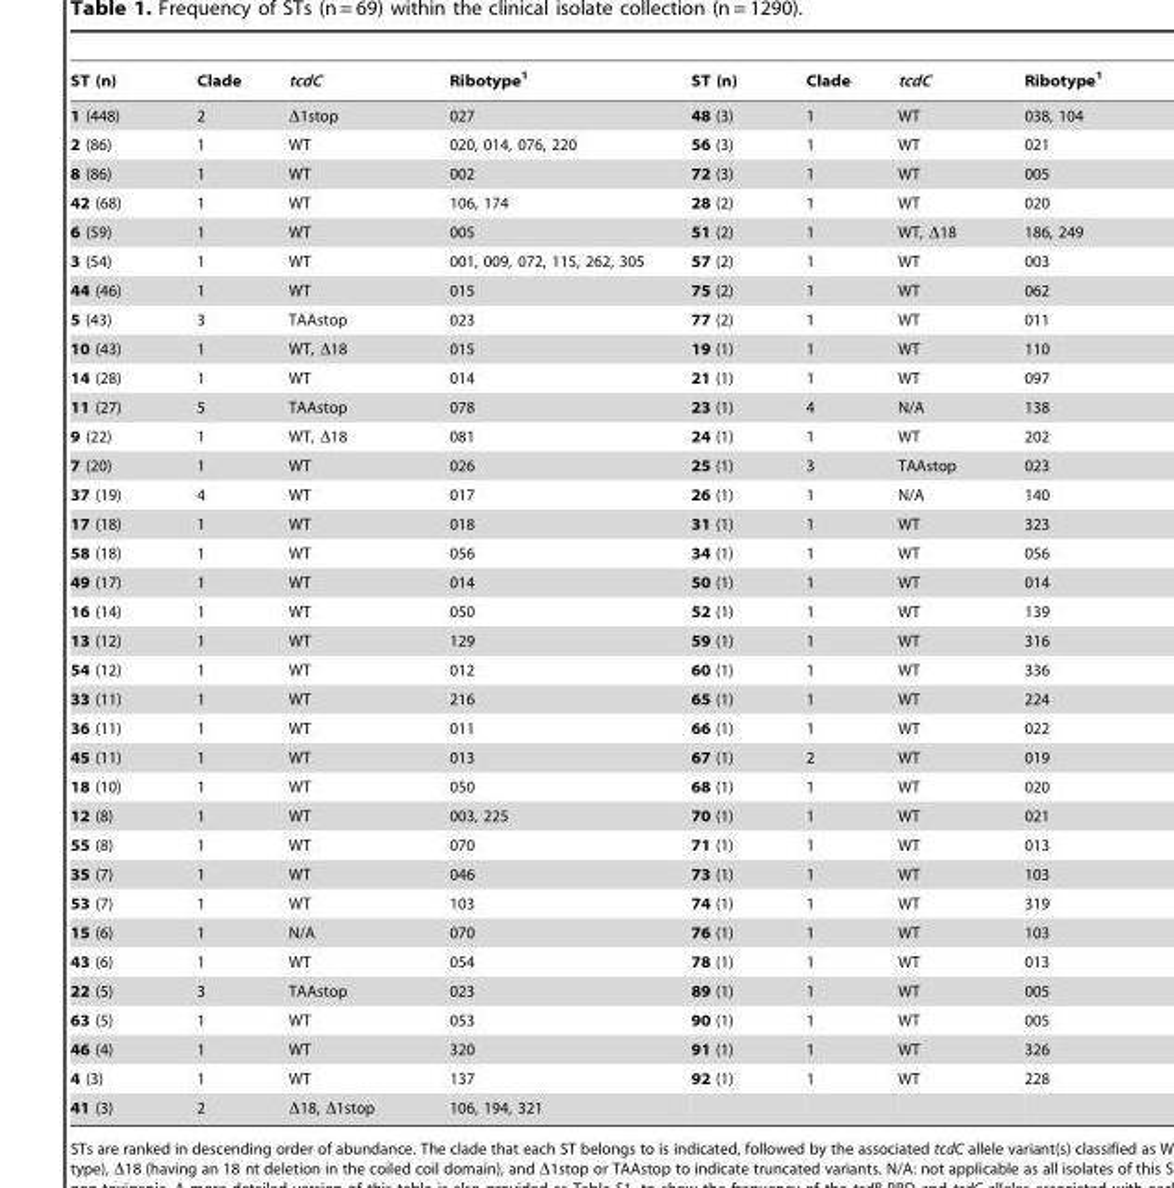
<table><thead><tr><td>ST (n)</td><td>Clade</td><td>tcdC</td><td>Ribotype<sup>1</sup></td><td>ST (n)</td><td>Clade</td><td>tcdC</td><td>Ribotype<sup>1</sup></td></tr></thead><tbody><tr><td>1 (448)</td><td>2</td><td>Δ1stop</td><td>027</td><td>48 (3)</td><td>1</td><td>WT</td><td>038, 104</td></tr><tr><td>2 (86)</td><td>1</td><td>WT</td><td>020, 014, 076, 220</td><td>56 (3)</td><td>1</td><td>WT</td><td>021</td></tr><tr><td>8 (86)</td><td>1</td><td>WT</td><td>002</td><td>72 (3)</td><td>1</td><td>WT</td><td>005</td></tr><tr><td>42 (68)</td><td>1</td><td>WT</td><td>106, 174</td><td>28 (2)</td><td>1</td><td>WT</td><td>020</td></tr><tr><td>6 (59)</td><td>1</td><td>WT</td><td>005</td><td>51 (2)</td><td>1</td><td>WT, Δ18</td><td>186, 249</td></tr><tr><td>3 (54)</td><td>1</td><td>WT</td><td>001, 009, 072, 115, 262, 305</td><td>57 (2)</td><td>1</td><td>WT</td><td>003</td></tr><tr><td>44 (46)</td><td>1</td><td>WT</td><td>015</td><td>75 (2)</td><td>1</td><td>WT</td><td>062</td></tr><tr><td>5 (43)</td><td>3</td><td>TAAstop</td><td>023</td><td>77 (2)</td><td>1</td><td>WT</td><td>011</td></tr><tr><td>10 (43)</td><td>1</td><td>WT, Δ18</td><td>015</td><td>19 (1)</td><td>1</td><td>WT</td><td>110</td></tr><tr><td>14 (28)</td><td>1</td><td>WT</td><td>014</td><td>21 (1)</td><td>1</td><td>WT</td><td>097</td></tr><tr><td>11 (27)</td><td>5</td><td>TAAstop</td><td>078</td><td>23 (1)</td><td>4</td><td>N/A</td><td>138</td></tr><tr><td>9 (22)</td><td>1</td><td>WT, Δ18</td><td>081</td><td>24 (1)</td><td>1</td><td>WT</td><td>202</td></tr><tr><td>7 (20)</td><td>1</td><td>WT</td><td>026</td><td>25 (1)</td><td>3</td><td>TAAstop</td><td>023</td></tr><tr><td>37 (19)</td><td>4</td><td>WT</td><td>017</td><td>26 (1)</td><td>1</td><td>N/A</td><td>140</td></tr><tr><td>17 (18)</td><td>1</td><td>WT</td><td>018</td><td>31 (1)</td><td>1</td><td>WT</td><td>323</td></tr><tr><td>58 (18)</td><td>1</td><td>WT</td><td>056</td><td>34 (1)</td><td>1</td><td>WT</td><td>056</td></tr><tr><td>49 (17)</td><td>1</td><td>WT</td><td>014</td><td>50 (1)</td><td>1</td><td>WT</td><td>014</td></tr><tr><td>16 (14)</td><td>1</td><td>WT</td><td>050</td><td>52 (1)</td><td>1</td><td>WT</td><td>139</td></tr><tr><td>13 (12)</td><td>1</td><td>WT</td><td>129</td><td>59 (1)</td><td>1</td><td>WT</td><td>316</td></tr><tr><td>54 (12)</td><td>1</td><td>WT</td><td>012</td><td>60 (1)</td><td>1</td><td>WT</td><td>336</td></tr><tr><td>33 (11)</td><td>1</td><td>WT</td><td>216</td><td>65 (1)</td><td>1</td><td>WT</td><td>224</td></tr><tr><td>36 (11)</td><td>1</td><td>WT</td><td>011</td><td>66 (1)</td><td>1</td><td>WT</td><td>022</td></tr><tr><td>45 (11)</td><td>1</td><td>WT</td><td>013</td><td>67 (1)</td><td>2</td><td>WT</td><td>019</td></tr><tr><td>18 (10)</td><td>1</td><td>WT</td><td>050</td><td>68 (1)</td><td>1</td><td>WT</td><td>020</td></tr><tr><td>12 (8)</td><td>1</td><td>WT</td><td>003, 225</td><td>70 (1)</td><td>1</td><td>WT</td><td>021</td></tr><tr><td>55 (8)</td><td>1</td><td>WT</td><td>070</td><td>71 (1)</td><td>1</td><td>WT</td><td>013</td></tr><tr><td>35 (7)</td><td>1</td><td>WT</td><td>046</td><td>73 (1)</td><td>1</td><td>WT</td><td>103</td></tr><tr><td>53 (7)</td><td>1</td><td>WT</td><td>103</td><td>74 (1)</td><td>1</td><td>WT</td><td>319</td></tr><tr><td>15 (6)</td><td>1</td><td>N/A</td><td>070</td><td>76 (1)</td><td>1</td><td>WT</td><td>103</td></tr><tr><td>43 (6)</td><td>1</td><td>WT</td><td>054</td><td>78 (1)</td><td>1</td><td>WT</td><td>013</td></tr><tr><td>22 (5)</td><td>3</td><td>TAAstop</td><td>023</td><td>89 (1)</td><td>1</td><td>WT</td><td>005</td></tr><tr><td>63 (5)</td><td>1</td><td>WT</td><td>053</td><td>90 (1)</td><td>1</td><td>WT</td><td>005</td></tr><tr><td>46 (4)</td><td>1</td><td>WT</td><td>320</td><td>91 (1)</td><td>1</td><td>WT</td><td>326</td></tr><tr><td>4 (3)</td><td>1</td><td>WT</td><td>137</td><td>92 (1)</td><td>1</td><td>WT</td><td>228</td></tr><tr><td>41 (3)</td><td>2</td><td>Δ18, Δ1stop</td><td>106, 194, 321</td><td></td><td></td><td></td><td></td></tr></tbody></table>